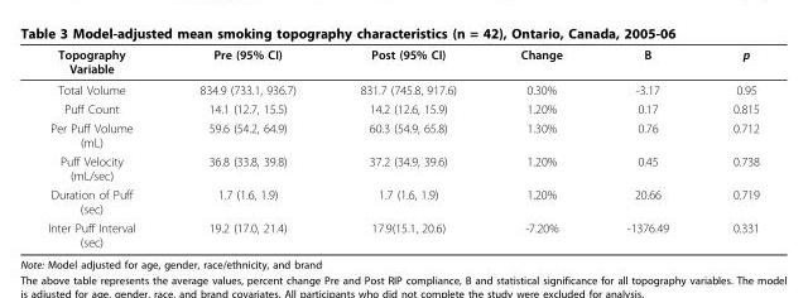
<table><thead><tr><td>Topography Variable</td><td>Pre (95% CI)</td><td>Post (95% CI)</td><td>Change</td><td>B</td><td>p</td></tr></thead><tbody><tr><td>Total Volume</td><td>834.9 (733.1, 936.7)</td><td>831.7 (745.8, 917.6)</td><td>0.30%</td><td>-3.17</td><td>0.95</td></tr><tr><td>Puff Count</td><td>14.1 (12.7, 15.5)</td><td>14.2 (12.6, 15.9)</td><td>1.20%</td><td>0.17</td><td>0.815</td></tr><tr><td>Per Puff Volume (mL)</td><td>59.6 (54.2, 64.9)</td><td>60.3 (54.9, 65.8)</td><td>1.30%</td><td>0.76</td><td>0.712</td></tr><tr><td>Puff Velocity (mL/sec)</td><td>36.8 (33.8, 39.8)</td><td>37.2 (34.9, 39.6)</td><td>1.20%</td><td>0.45</td><td>0.738</td></tr><tr><td>Duration of Puff (sec)</td><td>1.7 (1.6, 1.9)</td><td>1.7 (1.6, 1.9)</td><td>1.20%</td><td>20.66</td><td>0.719</td></tr><tr><td>Inter Puff Interval (sec)</td><td>19.2 (17.0, 21.4)</td><td>17.9(15.1, 20.6)</td><td>-7.20%</td><td>-1376.49</td><td>0.331</td></tr></tbody></table>